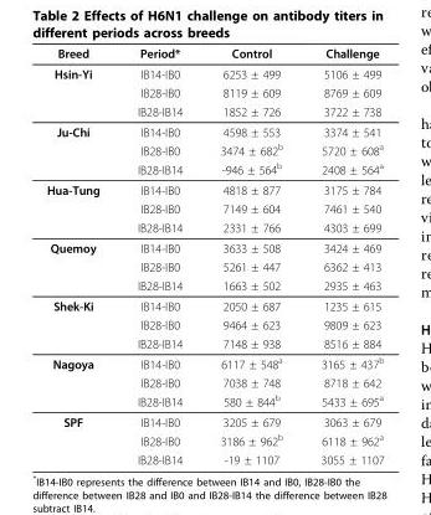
<table><thead><tr><td>Breed</td><td>Period*</td><td>Control</td><td>Challenge</td></tr></thead><tbody><tr><td rowspan="3">Hsin-Yi</td><td>IB14-IB0</td><td>6253 ± 499</td><td>5106 ± 499</td></tr><tr><td>IB28-IB0</td><td>8119 ± 609</td><td>8769 ± 609</td></tr><tr><td>IB28-IB14</td><td>1852 ± 726</td><td>3722 ± 738</td></tr><tr><td rowspan="3">Ju-Chi</td><td>IB14-IB0</td><td>4598 ± 553</td><td>3374 ± 541</td></tr><tr><td>IB28-IB0</td><td>3474 ± 682<sup>b</sup></td><td>5720 ± 608<sup>a</sup></td></tr><tr><td>IB28-IB14</td><td>-946 ± 564<sup>b</sup></td><td>2408 ± 564<sup>a</sup></td></tr><tr><td rowspan="3">Hua-Tung</td><td>IB14-IB0</td><td>4818 ± 877</td><td>3175 ± 784</td></tr><tr><td>IB28-IB0</td><td>7149 ± 604</td><td>7461 ± 540</td></tr><tr><td>IB28-IB14</td><td>2331 ± 766</td><td>4303 ± 699</td></tr><tr><td rowspan="3">Quemoy</td><td>IB14-IB0</td><td>3633 ± 508</td><td>3424 ± 469</td></tr><tr><td>IB28-IB0</td><td>5261 ± 447</td><td>6362 ± 413</td></tr><tr><td>IB28-IB14</td><td>1663 ± 502</td><td>2935 ± 463</td></tr><tr><td rowspan="3">Shek-Ki</td><td>IB14-IB0</td><td>2050 ± 687</td><td>1235 ± 615</td></tr><tr><td>IB28-IB0</td><td>9464 ± 623</td><td>9809 ± 623</td></tr><tr><td>IB28-IB14</td><td>7148 ± 938</td><td>8516 ± 884</td></tr><tr><td rowspan="3">Nagoya</td><td>IB14-IB0</td><td>6117 ± 548<sup>a</sup></td><td>3165 ± 437<sup>b</sup></td></tr><tr><td>IB28-IB0</td><td>7038 ± 748</td><td>8718 ± 642</td></tr><tr><td>IB28-IB14</td><td>580 ± 844<sup>b</sup></td><td>5433 ± 695<sup>a</sup></td></tr><tr><td rowspan="3">SPF</td><td>IB14-IB0</td><td>3205 ± 679</td><td>3063 ± 679</td></tr><tr><td>IB28-IB0</td><td>3186 ± 962<sup>b</sup></td><td>6118 ± 962<sup>a</sup></td></tr><tr><td>IB28-IB14</td><td>-19 ± 1107</td><td>3055 ± 1107</td></tr></tbody></table>